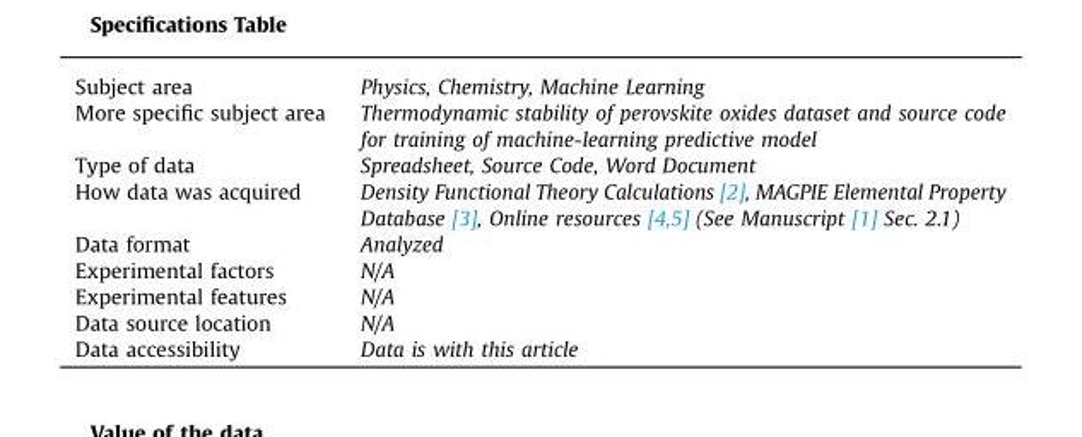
<table><tbody><tr><td>Subject area</td><td>Physics, Chemistry, Machine Learning</td></tr><tr><td>More specific subject area</td><td>Thermodynamic stability of perovskite oxides dataset and source code for training of machine-learning predictive model</td></tr><tr><td>Type of data</td><td>Spreadsheet, Source Code, Word Document</td></tr><tr><td>How data was acquired</td><td>Density Functional Theory Calculations [2], MAGPIE Elemental Property Database [3], Online resources [4,5] (See Manuscript [1] Sec. 2.1)</td></tr><tr><td>Data format</td><td>Analyzed</td></tr><tr><td>Experimental factors</td><td>N/A</td></tr><tr><td>Experimental features</td><td>N/A</td></tr><tr><td>Data source location</td><td>N/A</td></tr><tr><td>Data accessibility</td><td>Data is with this article</td></tr></tbody></table>